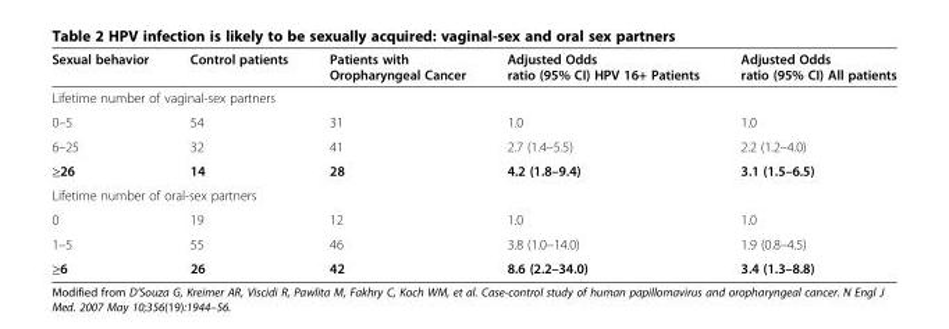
<table><thead><tr><td>Sexual behavior</td><td>Control patients</td><td>Patients with Oropharyngeal Cancer</td><td>Adjusted Odds ratio (95% CI) HPV 16+ Patients</td><td>Adjusted Odds ratio (95% CI) All patients</td></tr></thead><tbody><tr><td colspan="5">Lifetime number of vaginal-sex partners</td></tr><tr><td>0–5</td><td>54</td><td>31</td><td>1.0</td><td>1.0</td></tr><tr><td>6–25</td><td>32</td><td>41</td><td>2.7 (1.4–5.5)</td><td>2.2 (1.2–4.0)</td></tr><tr><td>≥26</td><td>14</td><td>28</td><td>4.2 (1.8–9.4)</td><td>3.1 (1.5–6.5)</td></tr><tr><td colspan="5">Lifetime number of oral-sex partners</td></tr><tr><td>0</td><td>19</td><td>12</td><td>1.0</td><td>1.0</td></tr><tr><td>1–5</td><td>55</td><td>46</td><td>3.8 (1.0–14.0)</td><td>1.9 (0.8–4.5)</td></tr><tr><td>≥6</td><td>26</td><td>42</td><td>8.6 (2.2–34.0)</td><td>3.4 (1.3–8.8)</td></tr></tbody></table>